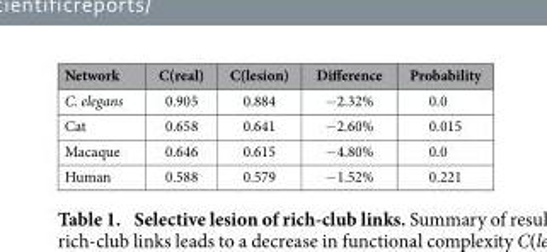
<table><thead><tr><td>Network</td><td>C(real)</td><td>C(lesion)</td><td>Difference</td><td>Probability</td></tr></thead><tbody><tr><td>C. elegans</td><td>0.905</td><td>0.884</td><td>− 2.32%</td><td>0.0</td></tr><tr><td>Cat</td><td>0.658</td><td>0.641</td><td>− 2.60%</td><td>0.015</td></tr><tr><td>Macaque</td><td>0.646</td><td>0.615</td><td>− 4.80%</td><td>0.0</td></tr><tr><td>Human</td><td>0.588</td><td>0.579</td><td>− 1.52%</td><td>0.221</td></tr></tbody></table>